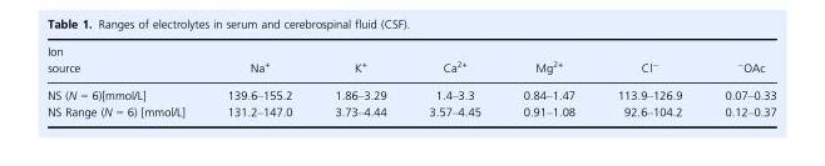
<table><thead><tr><td>Ion source</td><td>Na<sup>+</sup></td><td>K<sup>+</sup></td><td>Ca<sup>2+</sup></td><td>Mg<sup>2+</sup></td><td>Cl<sup>−</sup></td><td><sup>−</sup>OAc</td></tr></thead><tbody><tr><td>NS (N = 6)[mmol/L]</td><td>139.6–155.2</td><td>1.86–3.29</td><td>1.4–3.3</td><td>0.84–1.47</td><td>113.9–126.9</td><td>0.07–0.33</td></tr><tr><td>NS Range (N = 6) [mmol/L]</td><td>131.2–147.0</td><td>3.73–4.44</td><td>3.57–4.45</td><td>0.91–1.08</td><td>92.6–104.2</td><td>0.12–0.37</td></tr></tbody></table>